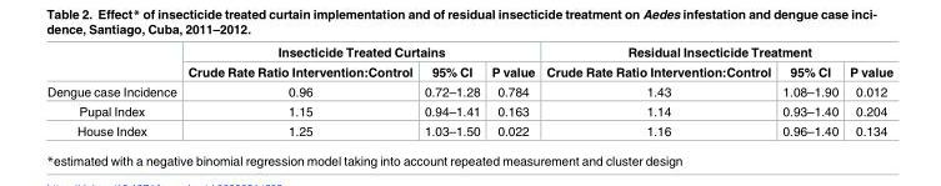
<table><thead><tr><td rowspan="2"></td><td colspan="3">Insecticide Treated Curtains</td><td colspan="3">Residual Insecticide Treatment</td></tr><tr><td>Crude Rate Ratio Intervention:Control</td><td>95% CI</td><td>P value</td><td>Crude Rate Ratio Intervention:Control</td><td>95% CI</td><td>P value</td></tr></thead><tbody><tr><td>Dengue case Incidence</td><td>0.96</td><td>0.72–1.28</td><td>0.784</td><td>1.43</td><td>1.08–1.90</td><td>0.012</td></tr><tr><td>Pupal Index</td><td>1.15</td><td>0.94–1.41</td><td>0.163</td><td>1.14</td><td>0.93–1.40</td><td>0.204</td></tr><tr><td>House Index</td><td>1.25</td><td>1.03–1.50</td><td>0.022</td><td>1.16</td><td>0.96–1.40</td><td>0.134</td></tr></tbody></table>